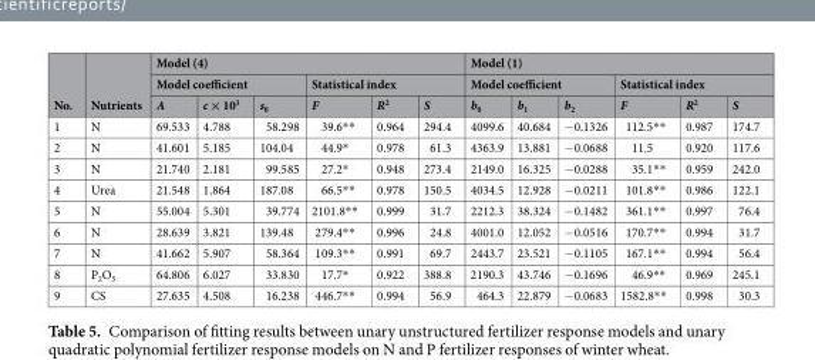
<table><thead><tr><td rowspan="3">No.</td><td rowspan="3">Nutrients</td><td colspan="6">Model (4)</td><td colspan="6">Model (1)</td></tr><tr><td colspan="3">Model coefficient</td><td colspan="3">Statistical index</td><td colspan="3">Model coefficient</td><td colspan="3">Statistical index</td></tr><tr><td>A</td><td>c × 10<sup>3</sup></td><td>s<sub>0</sub></td><td>F</td><td>R<sup>2</sup></td><td>S</td><td>b<sub>0</sub></td><td>b<sub>1</sub></td><td>b<sub>2</sub></td><td>F</td><td>R<sup>2</sup></td><td>S</td></tr></thead><tbody><tr><td>1</td><td>N</td><td>69.533</td><td>4.788</td><td>58.298</td><td>39.6**</td><td>0.964</td><td>294.4</td><td>4099.6</td><td>40.684</td><td>−0.1326</td><td>112.5**</td><td>0.987</td><td>174.7</td></tr><tr><td>2</td><td>N</td><td>41.601</td><td>5.185</td><td>104.04</td><td>44.9*</td><td>0.978</td><td>61.3</td><td>4363.9</td><td>13.881</td><td>−0.0688</td><td>11.5</td><td>0.920</td><td>117.6</td></tr><tr><td>3</td><td>N</td><td>21.740</td><td>2.181</td><td>99.585</td><td>27.2*</td><td>0.948</td><td>273.4</td><td>2149.0</td><td>16.325</td><td>−0.0288</td><td>35.1**</td><td>0.959</td><td>242.0</td></tr><tr><td>4</td><td>Urea</td><td>21.548</td><td>1.864</td><td>187.08</td><td>66.5**</td><td>0.978</td><td>150.5</td><td>4034.5</td><td>12.928</td><td>−0.0211</td><td>101.8**</td><td>0.986</td><td>122.1</td></tr><tr><td>5</td><td>N</td><td>55.004</td><td>5.301</td><td>39.774</td><td>2101.8**</td><td>0.999</td><td>31.7</td><td>2212.3</td><td>38.324</td><td>−0.1482</td><td>361.1**</td><td>0.997</td><td>76.4</td></tr><tr><td>6</td><td>N</td><td>28.639</td><td>3.821</td><td>139.48</td><td>279.4**</td><td>0.996</td><td>24.8</td><td>4001.0</td><td>12.052</td><td>−0.0516</td><td>170.7**</td><td>0.994</td><td>31.7</td></tr><tr><td>7</td><td>N</td><td>41.662</td><td>5.907</td><td>58.364</td><td>109.3**</td><td>0.991</td><td>69.7</td><td>2443.7</td><td>23.521</td><td>−0.1105</td><td>167.1**</td><td>0.994</td><td>56.4</td></tr><tr><td>8</td><td>P<sub>2</sub>O<sub>5</sub></td><td>64.806</td><td>6.027</td><td>33.830</td><td>17.7*</td><td>0.922</td><td>388.8</td><td>2190.3</td><td>43.746</td><td>−0.1696</td><td>46.9**</td><td>0.969</td><td>245.1</td></tr><tr><td>9</td><td>CS</td><td>27.635</td><td>4.508</td><td>16.238</td><td>446.7**</td><td>0.994</td><td>56.9</td><td>464.3</td><td>22.879</td><td>−0.0683</td><td>1582.8**</td><td>0.998</td><td>30.3</td></tr></tbody></table>